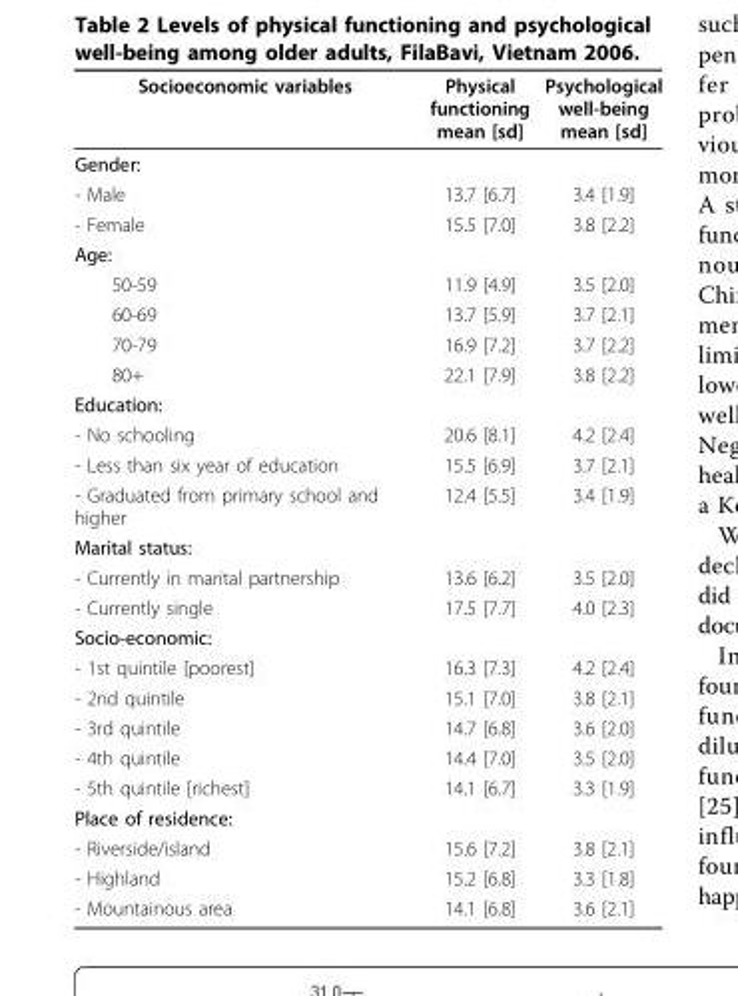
<table><thead><tr><td>Socioeconomic variables</td><td>Physical functioning mean [sd]</td><td>Psychological well-being mean [sd]</td></tr></thead><tbody><tr><td colspan="3">Gender:</td></tr><tr><td>- Male</td><td>13.7 [6.7]</td><td>3.4 [1.9]</td></tr><tr><td>- Female</td><td>15.5 [7.0]</td><td>3.8 [2.2]</td></tr><tr><td colspan="3">Age:</td></tr><tr><td>50-59</td><td>11.9 [4.9]</td><td>3.5 [2.0]</td></tr><tr><td>60-69</td><td>13.7 [5.9]</td><td>3.7 [2.1]</td></tr><tr><td>70-79</td><td>16.9 [7.2]</td><td>3.7 [2.2]</td></tr><tr><td>80+</td><td>22.1 [7.9]</td><td>3.8 [2.2]</td></tr><tr><td colspan="3">Education:</td></tr><tr><td>- No schooling</td><td>20.6 [8.1]</td><td>4.2 [2.4]</td></tr><tr><td>- Less than six year of education</td><td>15.5 [6.9]</td><td>3.7 [2.1]</td></tr><tr><td>- Graduated from primary school and higher</td><td>12.4 [5.5]</td><td>3.4 [1.9]</td></tr><tr><td colspan="3">Marital status:</td></tr><tr><td>- Currently in marital partnership</td><td>13.6 [6.2]</td><td>3.5 [2.0]</td></tr><tr><td>- Currently single</td><td>17.5 [7.7]</td><td>4.0 [2.3]</td></tr><tr><td colspan="3">Socio-economic:</td></tr><tr><td>- 1st quintile [poorest]</td><td>16.3 [7.3]</td><td>4.2 [2.4]</td></tr><tr><td>- 2nd quintile</td><td>15.1 [7.0]</td><td>3.8 [2.1]</td></tr><tr><td>- 3rd quintile</td><td>14.7 [6.8]</td><td>3.6 [2.0]</td></tr><tr><td>- 4th quintile</td><td>14.4 [7.0]</td><td>3.5 [2.0]</td></tr><tr><td>- 5th quintile [richest]</td><td>14.1 [6.7]</td><td>3.3 [1.9]</td></tr><tr><td colspan="3">Place of residence:</td></tr><tr><td>- Riverside/island</td><td>15.6 [7.2]</td><td>3.8 [2.1]</td></tr><tr><td>- Highland</td><td>15.2 [6.8]</td><td>3.3 [1.8]</td></tr><tr><td>- Mountainous area</td><td>14.1 [6.8]</td><td>3.6 [2.1]</td></tr></tbody></table>